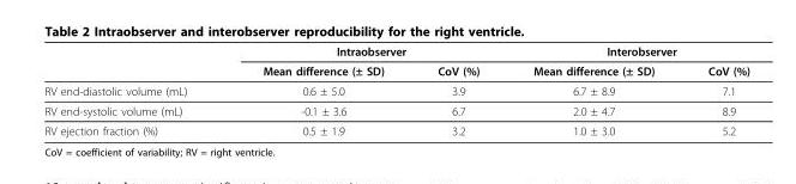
<table><thead><tr><td rowspan="2"></td><td colspan="2">Intraobserver</td><td colspan="2">Interobserver</td></tr><tr><td>Mean difference (± SD)</td><td>CoV (%)</td><td>Mean difference (± SD)</td><td>CoV (%)</td></tr></thead><tbody><tr><td>RV end-diastolic volume (mL)</td><td>0.6 ± 5.0</td><td>3.9</td><td>6.7 ± 8.9</td><td>7.1</td></tr><tr><td>RV end-systolic volume (mL)</td><td>-0.1 ± 3.6</td><td>6.7</td><td>2.0 ± 4.7</td><td>8.9</td></tr><tr><td>RV ejection fraction (%)</td><td>0.5 ± 1.9</td><td>3.2</td><td>1.0 ± 3.0</td><td>5.2</td></tr></tbody></table>